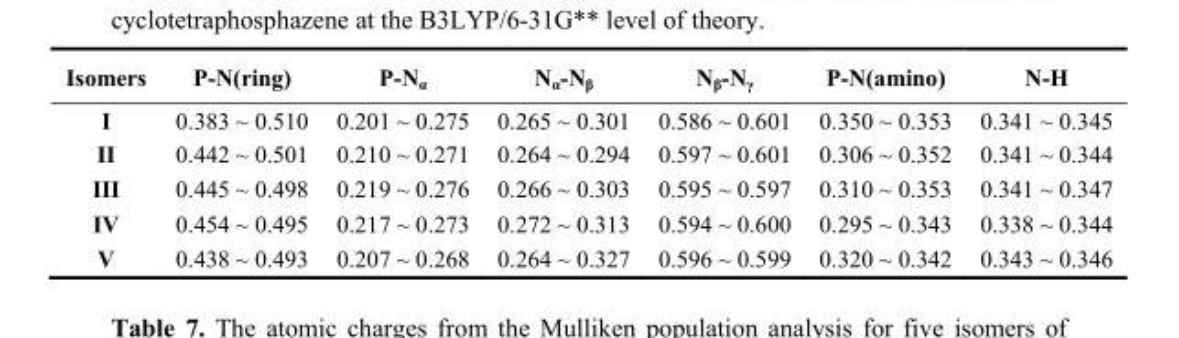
<table><thead><tr><td>Isomers</td><td>P-N(ring)</td><td>P-N<sub>α</sub></td><td>N<sub>α</sub>-N<sub>β</sub></td><td>N<sub>β</sub>-N<sub>γ</sub></td><td>P-N(amino)</td><td>N-H</td></tr></thead><tbody><tr><td>I</td><td>0.383 ~ 0.510</td><td>0.201 ~ 0.275</td><td>0.265 ~ 0.301</td><td>0.586 ~ 0.601</td><td>0.350 ~ 0.353</td><td>0.341 ~ 0.345</td></tr><tr><td>II</td><td>0.442 ~ 0.501</td><td>0.210 ~ 0.271</td><td>0.264 ~ 0.294</td><td>0.597 ~ 0.601</td><td>0.306 ~ 0.352</td><td>0.341 ~ 0.344</td></tr><tr><td>III</td><td>0.445 ~ 0.498</td><td>0.219 ~ 0.276</td><td>0.266 ~ 0.303</td><td>0.595 ~ 0.597</td><td>0.310 ~ 0.353</td><td>0.341 ~ 0.347</td></tr><tr><td>IV</td><td>0.454 ~ 0.495</td><td>0.217 ~ 0.273</td><td>0.272 ~ 0.313</td><td>0.594 ~ 0.600</td><td>0.295 ~ 0.343</td><td>0.338 ~ 0.344</td></tr><tr><td>V</td><td>0.438 ~ 0.493</td><td>0.207 ~ 0.268</td><td>0.264 ~ 0.327</td><td>0.596 ~ 0.599</td><td>0.320 ~ 0.342</td><td>0.343 ~ 0.346</td></tr></tbody></table>